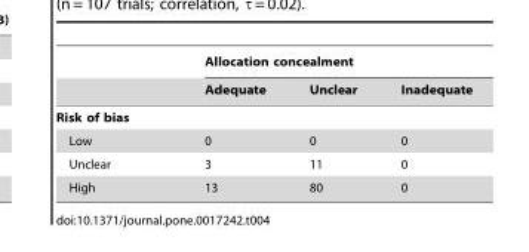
<table><thead><tr><td rowspan="2"></td><td colspan="3">Allocation concealment</td></tr><tr><td>Adequate</td><td>Unclear</td><td>Inadequate</td></tr></thead><tbody><tr><td colspan="4">Risk of bias</td></tr><tr><td>Low</td><td>0</td><td>0</td><td>0</td></tr><tr><td>Unclear</td><td>3</td><td>11</td><td>0</td></tr><tr><td>High</td><td>13</td><td>80</td><td>0</td></tr></tbody></table>